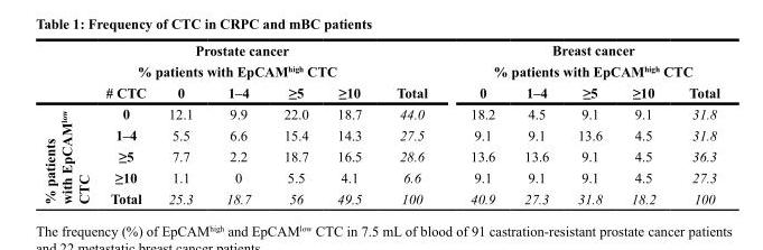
<table><thead><tr><td rowspan="2" colspan="6">Prostate cancer % patients with EpCAM<sup>high</sup> CTC</td><td rowspan="3">Total</td><td rowspan="2" colspan="5">Breast cancer % patients with EpCAM<sup>high</sup> CTC</td></tr><tr></tr><tr><td></td><td># CTC</td><td>0</td><td>1–4</td><td>≥5</td><td>≥10</td><td>0</td><td>1–4</td><td>≥5</td><td>≥10</td><td>Total</td></tr></thead><tbody><tr><td rowspan="5">% patients with EpCAM<sup>low</sup> CTC</td><td>0</td><td>12.1</td><td>9.9</td><td>22.0</td><td>18.7</td><td>44.0</td><td>18.2</td><td>4.5</td><td>9.1</td><td>9.1</td><td>31.8</td></tr><tr><td>1–4</td><td>5.5</td><td>6.6</td><td>15.4</td><td>14.3</td><td>27.5</td><td>9.1</td><td>9.1</td><td>13.6</td><td>4.5</td><td>31.8</td></tr><tr><td>≥5</td><td>7.7</td><td>2.2</td><td>18.7</td><td>16.5</td><td>28.6</td><td>13.6</td><td>13.6</td><td>9.1</td><td>4.5</td><td>36.3</td></tr><tr><td>≥10</td><td>1.1</td><td>0</td><td>5.5</td><td>4.1</td><td>6.6</td><td>9.1</td><td>9.1</td><td>9.1</td><td>4.5</td><td>27.3</td></tr><tr><td>Total</td><td>25.3</td><td>18.7</td><td>56</td><td>49.5</td><td>100</td><td>40.9</td><td>27.3</td><td>31.8</td><td>18.2</td><td>100</td></tr></tbody></table>